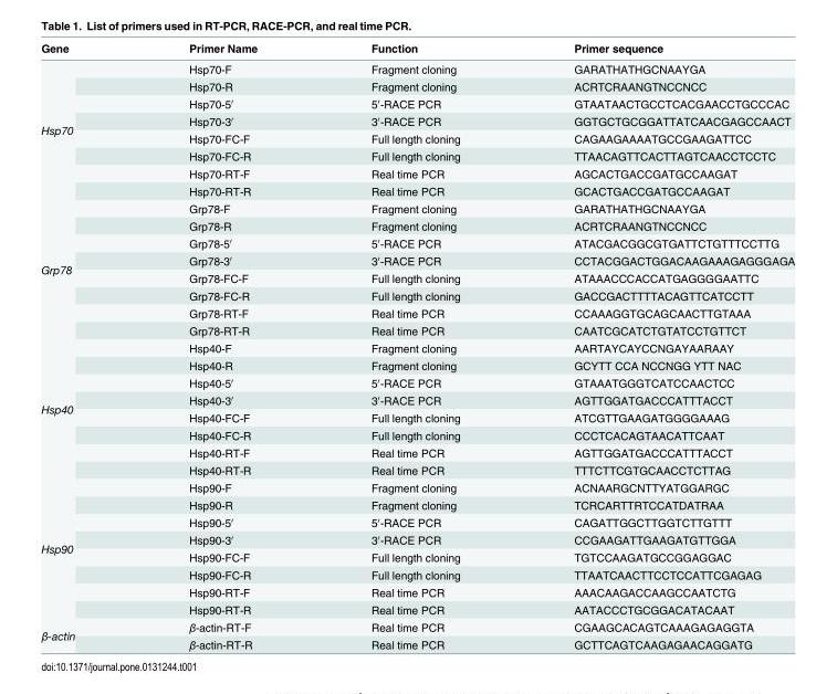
<table><thead><tr><td>Gene</td><td>Primer Name</td><td>Function</td><td>Primer sequence</td></tr></thead><tbody><tr><td rowspan="8">Hsp70</td><td>Hsp70-F</td><td>Fragment cloning</td><td>GARATHATHGCNAAYGA</td></tr><tr><td>Hsp70-R</td><td>Fragment cloning</td><td>ACRTCRAANGTNCCNCC</td></tr><tr><td>Hsp70-5′</td><td>5′-RACE PCR</td><td>GTAATAACTGCCTCACGAACCTGCCCAC</td></tr><tr><td>Hsp70-3′</td><td>3′-RACE PCR</td><td>GGTGCTGCGGATTATCAACGAGCCAACT</td></tr><tr><td>Hsp70-FC-F</td><td>Full length cloning</td><td>CAGAAGAAAATGCCGAAGATTCC</td></tr><tr><td>Hsp70-FC-R</td><td>Full length cloning</td><td>TTAACAGTTCACTTAGTCAACCTCCTC</td></tr><tr><td>Hsp70-RT-F</td><td>Real time PCR</td><td>AGCACTGACCGATGCCAAGAT</td></tr><tr><td>Hsp70-RT-R</td><td>Real time PCR</td><td>GCACTGACCGATGCCAAGAT</td></tr><tr><td rowspan="8">Grp78</td><td>Grp78-F</td><td>Fragment cloning</td><td>GARATHATHGCNAAYGA</td></tr><tr><td>Grp78-R</td><td>Fragment cloning</td><td>ACRTCRAANGTNCCNCC</td></tr><tr><td>Grp78-5′</td><td>5′-RACE PCR</td><td>ATACGACGGCGTGATTCTGTTTCCTTG</td></tr><tr><td>Grp78-3′</td><td>3′-RACE PCR</td><td>CCTACGGACTGGACAAGAAAGAGGGAGA</td></tr><tr><td>Grp78-FC-F</td><td>Full length cloning</td><td>ATAAACCCACCATGAGGGGAATTC</td></tr><tr><td>Grp78-FC-R</td><td>Full length cloning</td><td>GACCGACTTTTACAGTTCATCCTT</td></tr><tr><td>Grp78-RT-F</td><td>Real time PCR</td><td>CCAAAGGTGCAGCAACTTGTAAA</td></tr><tr><td>Grp78-RT-R</td><td>Real time PCR</td><td>CAATCGCATCTGTATCCTGTTCT</td></tr><tr><td rowspan="8">Hsp40</td><td>Hsp40-F</td><td>Fragment cloning</td><td>AARTAYCAYCCNGAYAARAAY</td></tr><tr><td>Hsp40-R</td><td>Fragment cloning</td><td>GCYTT CCA NCCNGG YTT NAC</td></tr><tr><td>Hsp40-5′</td><td>5′-RACE PCR</td><td>GTAAATGGGTCATCCAACTCC</td></tr><tr><td>Hsp40-3′</td><td>3′-RACE PCR</td><td>AGTTGGATGACCCATTTACCT</td></tr><tr><td>Hsp40-FC-F</td><td>Full length cloning</td><td>ATCGTTGAAGATGGGGAAAG</td></tr><tr><td>Hsp40-FC-R</td><td>Full length cloning</td><td>CCCTCACAGTAACATTCAAT</td></tr><tr><td>Hsp40-RT-F</td><td>Real time PCR</td><td>AGTTGGATGACCCATTTACCT</td></tr><tr><td>Hsp40-RT-R</td><td>Real time PCR</td><td>TTTCTTCGTGCAACCTCTTAG</td></tr><tr><td rowspan="8">Hsp90</td><td>Hsp90-F</td><td>Fragment cloning</td><td>ACNAARGCNTTYATGGARGC</td></tr><tr><td>Hsp90-R</td><td>Fragment cloning</td><td>TCRCARTTRTCCATDATRAA</td></tr><tr><td>Hsp90-5′</td><td>5′-RACE PCR</td><td>CAGATTGGCTTGGTCTTGTTT</td></tr><tr><td>Hsp90-3′</td><td>3′-RACE PCR</td><td>CCGAAGATTGAAGATGTTGGA</td></tr><tr><td>Hsp90-FC-F</td><td>Full length cloning</td><td>TGTCCAAGATGCCGGAGGAC</td></tr><tr><td>Hsp90-FC-R</td><td>Full length cloning</td><td>TTAATCAACTTCCTCCATTCGAGAG</td></tr><tr><td>Hsp90-RT-F</td><td>Real time PCR</td><td>AAACAAGACCAAGCCAATCTG</td></tr><tr><td>Hsp90-RT-R</td><td>Real time PCR</td><td>AATACCCTGCGGACATACAAT</td></tr><tr><td rowspan="2">β-actin</td><td>β-actin-RT-F</td><td>Real time PCR</td><td>CGAAGCACAGTCAAAGAGAGGTA</td></tr><tr><td>β-actin-RT-R</td><td>Real time PCR</td><td>GCTTCAGTCAAGAGAACAGGATG</td></tr></tbody></table>